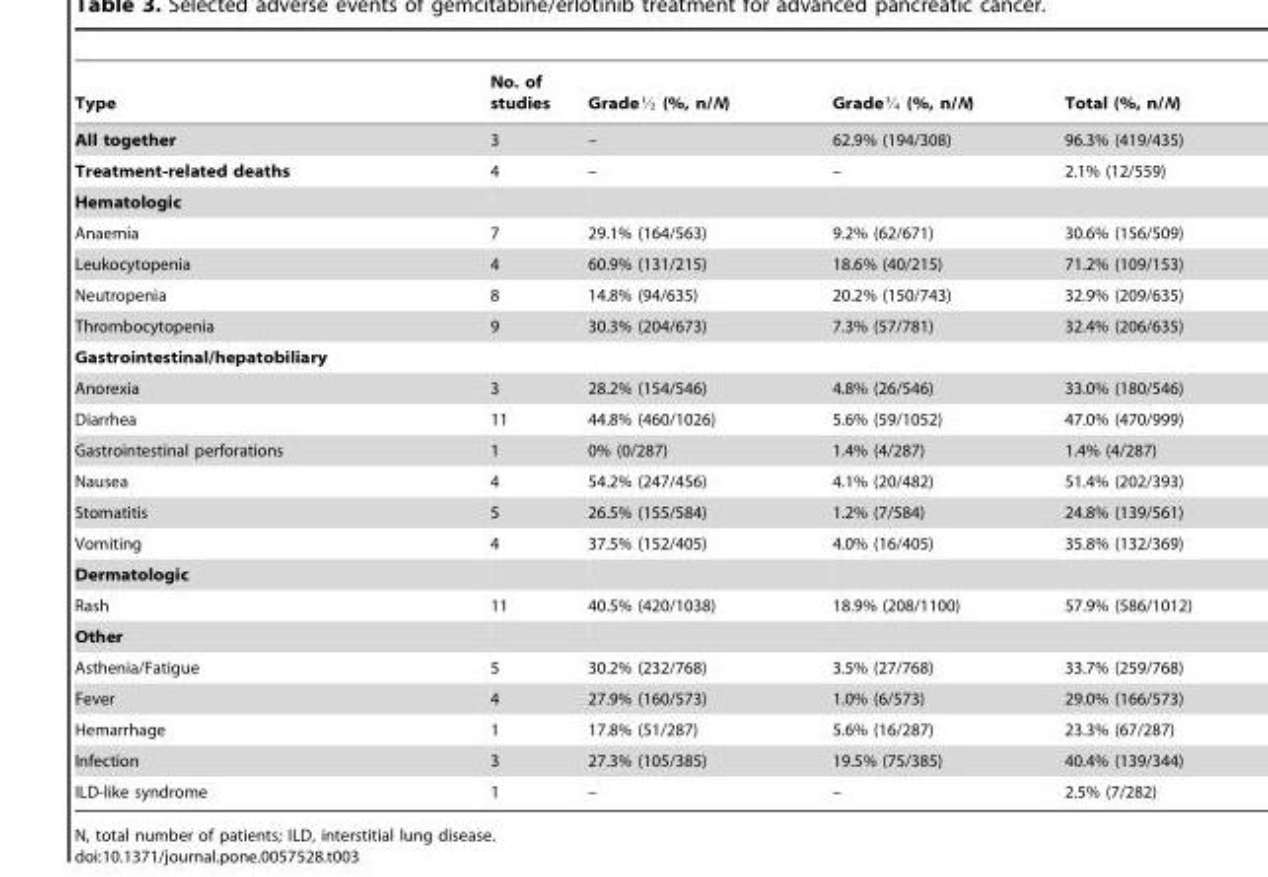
<table><thead><tr><td>Type</td><td>No. of studies</td><td>GradeK (%, n/N)</td><td>GradeL (%, n/N)</td><td>Total (%, n/N)</td></tr></thead><tbody><tr><td>All together</td><td>3</td><td>–</td><td>62.9% (194/308)</td><td>96.3% (419/435)</td></tr><tr><td>Treatment-related deaths</td><td>4</td><td>–</td><td>–</td><td>2.1% (12/559)</td></tr><tr><td colspan="5">Hematologic</td></tr><tr><td>Anaemia</td><td>7</td><td>29.1% (164/563)</td><td>9.2% (62/671)</td><td>30.6% (156/509)</td></tr><tr><td>Leukocytopenia</td><td>4</td><td>60.9% (131/215)</td><td>18.6% (40/215)</td><td>71.2% (109/153)</td></tr><tr><td>Neutropenia</td><td>8</td><td>14.8% (94/635)</td><td>20.2% (150/743)</td><td>32.9% (209/635)</td></tr><tr><td>Thrombocytopenia</td><td>9</td><td>30.3% (204/673)</td><td>7.3% (57/781)</td><td>32.4% (206/635)</td></tr><tr><td colspan="5">Gastrointestinal/hepatobiliary</td></tr><tr><td>Anorexia</td><td>3</td><td>28.2% (154/546)</td><td>4.8% (26/546)</td><td>33.0% (180/546)</td></tr><tr><td>Diarrhea</td><td>11</td><td>44.8% (460/1026)</td><td>5.6% (59/1052)</td><td>47.0% (470/999)</td></tr><tr><td>Gastrointestinal perforations</td><td>1</td><td>0% (0/287)</td><td>1.4% (4/287)</td><td>1.4% (4/287)</td></tr><tr><td>Nausea</td><td>4</td><td>54.2% (247/456)</td><td>4.1% (20/482)</td><td>51.4% (202/393)</td></tr><tr><td>Stomatitis</td><td>5</td><td>26.5% (155/584)</td><td>1.2% (7/584)</td><td>24.8% (139/561)</td></tr><tr><td>Vomiting</td><td>4</td><td>37.5% (152/405)</td><td>4.0% (16/405)</td><td>35.8% (132/369)</td></tr><tr><td colspan="5">Dermatologic</td></tr><tr><td>Rash</td><td>11</td><td>40.5% (420/1038)</td><td>18.9% (208/1100)</td><td>57.9% (586/1012)</td></tr><tr><td colspan="5">Other</td></tr><tr><td>Asthenia/Fatigue</td><td>5</td><td>30.2% (232/768)</td><td>3.5% (27/768)</td><td>33.7% (259/768)</td></tr><tr><td>Fever</td><td>4</td><td>27.9% (160/573)</td><td>1.0% (6/573)</td><td>29.0% (166/573)</td></tr><tr><td>Hemarrhage</td><td>1</td><td>17.8% (51/287)</td><td>5.6% (16/287)</td><td>23.3% (67/287)</td></tr><tr><td>Infection</td><td>3</td><td>27.3% (105/385)</td><td>19.5% (75/385)</td><td>40.4% (139/344)</td></tr><tr><td>ILD-like syndrome</td><td>1</td><td>–</td><td>–</td><td>2.5% (7/282)</td></tr></tbody></table>